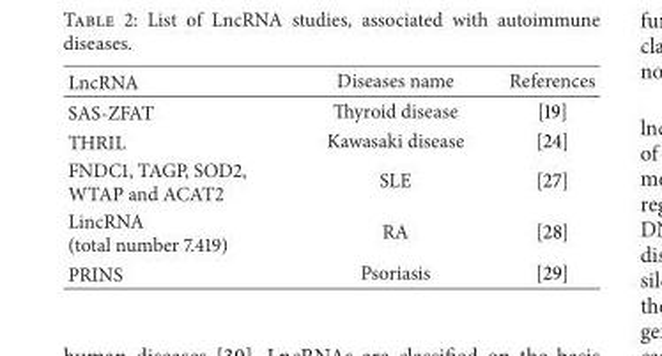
<table><thead><tr><td>LncRNA</td><td>Diseases name</td><td>References</td></tr></thead><tbody><tr><td>SAS-ZFAT</td><td>Thyroid disease</td><td>[19]</td></tr><tr><td>THRIL</td><td>Kawasaki disease</td><td>[24]</td></tr><tr><td>FNDC1, TAGP, SOD2, WTAP and ACAT2</td><td>SLE</td><td>[27]</td></tr><tr><td>LincRNA (total number 7.419)</td><td>RA</td><td>[28]</td></tr><tr><td>PRINS</td><td>Psoriasis</td><td>[29]</td></tr></tbody></table>